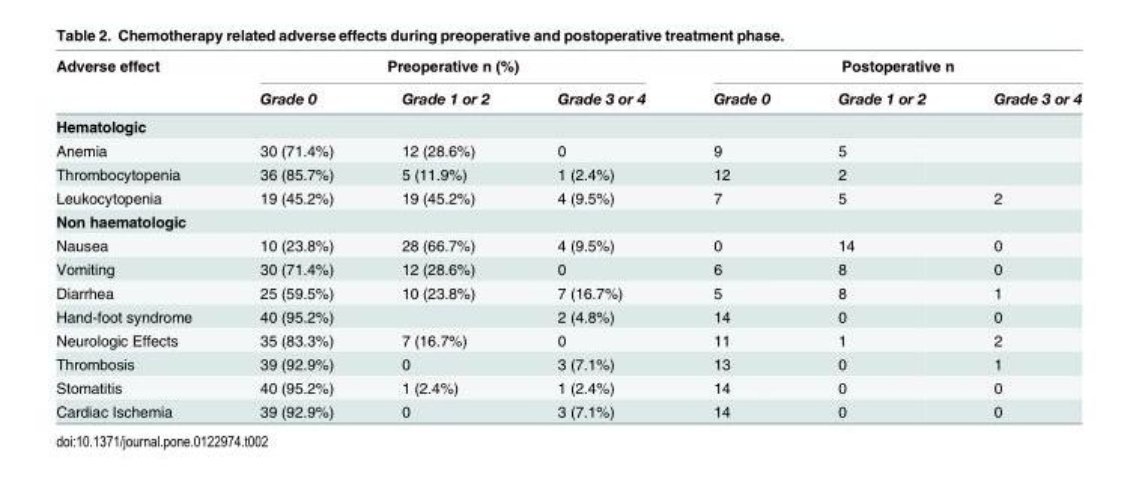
<table><thead><tr><td rowspan="2">Adverse effect</td><td colspan="3">Preoperative n (%)</td><td colspan="3">Postoperative n</td></tr><tr><td>Grade 0</td><td>Grade 1 or 2</td><td>Grade 3 or 4</td><td>Grade 0</td><td>Grade 1 or 2</td><td>Grade 3 or 4</td></tr></thead><tbody><tr><td colspan="7">Hematologic</td></tr><tr><td>Anemia</td><td>30 (71.4%)</td><td>12 (28.6%)</td><td>0</td><td>9</td><td>5</td><td></td></tr><tr><td>Thrombocytopenia</td><td>36 (85.7%)</td><td>5 (11.9%)</td><td>1 (2.4%)</td><td>12</td><td>2</td><td></td></tr><tr><td>Leukocytopenia</td><td>19 (45.2%)</td><td>19 (45.2%)</td><td>4 (9.5%)</td><td>7</td><td>5</td><td>2</td></tr><tr><td colspan="7">Non haematologic</td></tr><tr><td>Nausea</td><td>10 (23.8%)</td><td>28 (66.7%)</td><td>4 (9.5%)</td><td>0</td><td>14</td><td>0</td></tr><tr><td>Vomiting</td><td>30 (71.4%)</td><td>12 (28.6%)</td><td>0</td><td>6</td><td>8</td><td>0</td></tr><tr><td>Diarrhea</td><td>25 (59.5%)</td><td>10 (23.8%)</td><td>7 (16.7%)</td><td>5</td><td>8</td><td>1</td></tr><tr><td>Hand-foot syndrome</td><td colspan="2">40 (95.2%)</td><td>2 (4.8%)</td><td>14</td><td>0</td><td>0</td></tr><tr><td>Neurologic Effects</td><td>35 (83.3%)</td><td>7 (16.7%)</td><td>0</td><td>11</td><td>1</td><td>2</td></tr><tr><td>Thrombosis</td><td>39 (92.9%)</td><td>0</td><td>3 (7.1%)</td><td>13</td><td>0</td><td>1</td></tr><tr><td>Stomatitis</td><td>40 (95.2%)</td><td>1 (2.4%)</td><td>1 (2.4%)</td><td>14</td><td>0</td><td>0</td></tr><tr><td>Cardiac Ischemia</td><td>39 (92.9%)</td><td>0</td><td>3 (7.1%)</td><td>14</td><td>0</td><td>0</td></tr></tbody></table>